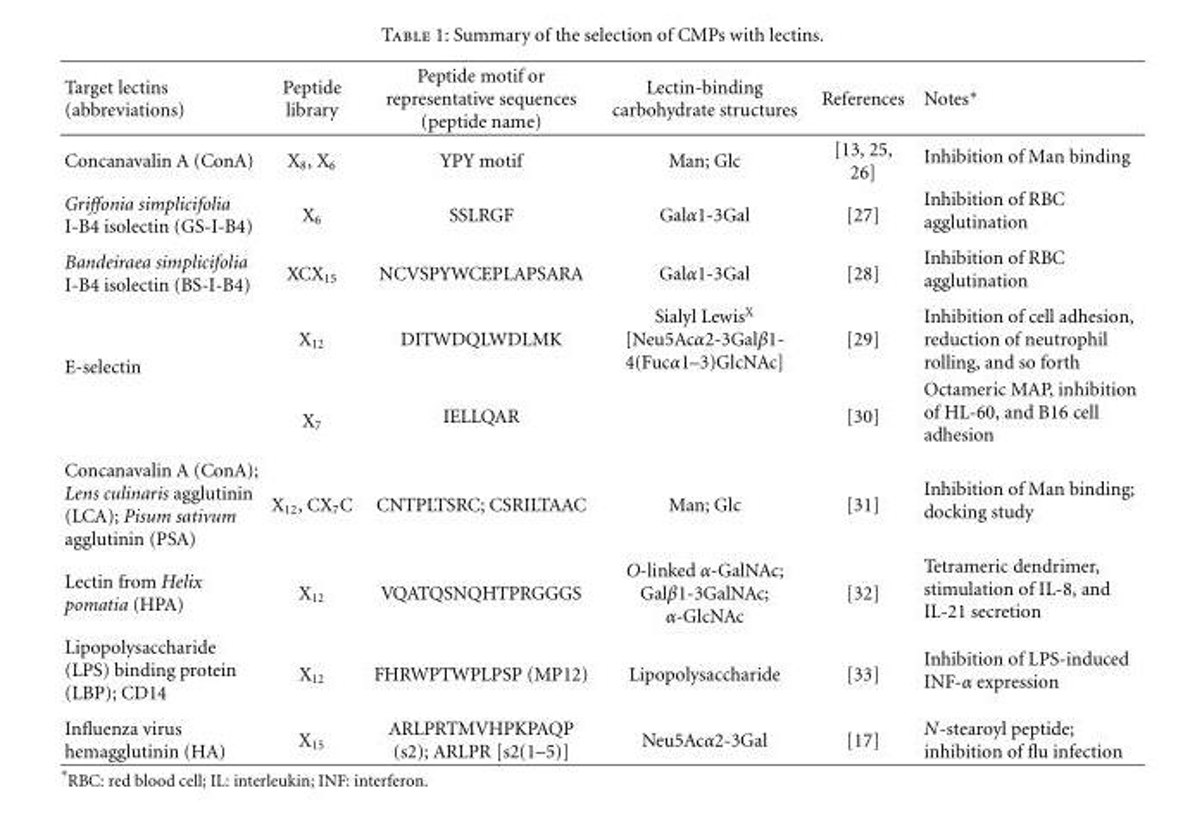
<table><thead><tr><td>Target lectins (abbreviations)</td><td>Peptide library</td><td>Peptide motif or representative sequences (peptide name)</td><td>Lectin-binding carbohydrate structures</td><td>References</td><td>Notes∗</td></tr></thead><tbody><tr><td>Concanavalin A (ConA)</td><td>X<sub>8</sub>, X<sub>6</sub></td><td>YPY motif</td><td>Man; Glc</td><td>[13, 25, 26]</td><td>Inhibition of Man binding</td></tr><tr><td>Griffonia simplicifolia I-B4 isolectin (GS-I-B4)</td><td>X<sub>6</sub></td><td>SSLRGF</td><td>Galα1-3Gal</td><td>[27]</td><td>Inhibition of RBC agglutination</td></tr><tr><td>Bandeiraea simplicifolia I-B4 isolectin (BS-I-B4)</td><td>XCX<sub>15</sub></td><td>NCVSPYWCEPLAPSARA</td><td>Galα1-3Gal</td><td>[28]</td><td>Inhibition of RBC agglutination</td></tr><tr><td rowspan="2">E-selectin</td><td>X<sub>12</sub></td><td>DITWDQLWDLMK</td><td>Sialyl Lewis<sup>X</sup> [Neu5Acα2-3Galβ1- 4(Fucα1–3)GlcNAc]</td><td>[29]</td><td>Inhibition of cell adhesion, reduction of neutrophil rolling, and so forth</td></tr><tr><td>X<sub>7</sub></td><td>IELLQAR</td><td></td><td>[30]</td><td>Octameric MAP, inhibition of HL-60, and B16 cell adhesion</td></tr><tr><td>Concanavalin A (ConA); Lens culinaris agglutinin (LCA); Pisum sativum agglutinin (PSA)</td><td>X<sub>12</sub>, CX<sub>7</sub>C</td><td>CNTPLTSRC; CSRILTAAC</td><td>Man; Glc</td><td>[31]</td><td>Inhibition of Man binding; docking study</td></tr><tr><td>Lectin from Helix pomatia (HPA)</td><td>X<sub>12</sub></td><td>VQATQSNQHTPRGGGS</td><td>O-linked α-GalNAc; Galβ1-3GalNAc; α-GlcNAc</td><td>[32]</td><td>Tetrameric dendrimer, stimulation of IL-8, and IL-21 secretion</td></tr><tr><td>Lipopolysaccharide (LPS) binding protein (LBP); CD14</td><td>X<sub>12</sub></td><td>FHRWPTWPLPSP (MP12)</td><td>Lipopolysaccharide</td><td>[33]</td><td>Inhibition of LPS-induced INF-α expression</td></tr><tr><td>Influenza virus hemagglutinin (HA)</td><td>X<sub>15</sub></td><td>ARLPRTMVHPKPAQP (s2); ARLPR [s2(1–5)]</td><td>Neu5Acα2-3Gal</td><td>[17]</td><td>N-stearoyl peptide; inhibition of flu infection</td></tr></tbody></table>